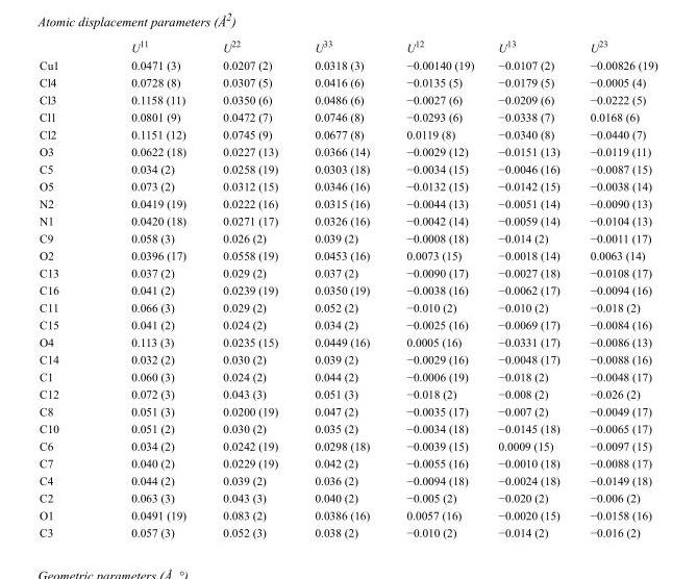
<table><thead><tr><td></td><td>U<sup>11</sup></td><td>U<sup>22</sup></td><td>U<sup>33</sup></td><td>U<sup>12</sup></td><td>U<sup>13</sup></td><td>U<sup>23</sup></td></tr></thead><tbody><tr><td>Cu1</td><td>0.0471 (3)</td><td>0.0207 (2)</td><td>0.0318 (3)</td><td>−0.00140 (19)</td><td>−0.0107 (2)</td><td>−0.00826 (19)</td></tr><tr><td>Cl4</td><td>0.0728 (8)</td><td>0.0307 (5)</td><td>0.0416 (6)</td><td>−0.0135 (5)</td><td>−0.0179 (5)</td><td>−0.0005 (4)</td></tr><tr><td>Cl3</td><td>0.1158 (11)</td><td>0.0350 (6)</td><td>0.0486 (6)</td><td>−0.0027 (6)</td><td>−0.0209 (6)</td><td>−0.0222 (5)</td></tr><tr><td>Cl1</td><td>0.0801 (9)</td><td>0.0472 (7)</td><td>0.0746 (8)</td><td>−0.0293 (6)</td><td>−0.0338 (7)</td><td>0.0168 (6)</td></tr><tr><td>Cl2</td><td>0.1151 (12)</td><td>0.0745 (9)</td><td>0.0677 (8)</td><td>0.0119 (8)</td><td>−0.0340 (8)</td><td>−0.0440 (7)</td></tr><tr><td>O3</td><td>0.0622 (18)</td><td>0.0227 (13)</td><td>0.0366 (14)</td><td>−0.0029 (12)</td><td>−0.0151 (13)</td><td>−0.0119 (11)</td></tr><tr><td>C5</td><td>0.034 (2)</td><td>0.0258 (19)</td><td>0.0303 (18)</td><td>−0.0034 (15)</td><td>−0.0046 (16)</td><td>−0.0087 (15)</td></tr><tr><td>O5</td><td>0.073 (2)</td><td>0.0312 (15)</td><td>0.0346 (16)</td><td>−0.0132 (15)</td><td>−0.0142 (15)</td><td>−0.0038 (14)</td></tr><tr><td>N2</td><td>0.0419 (19)</td><td>0.0222 (16)</td><td>0.0315 (16)</td><td>−0.0044 (13)</td><td>−0.0051 (14)</td><td>−0.0090 (13)</td></tr><tr><td>N1</td><td>0.0420 (18)</td><td>0.0271 (17)</td><td>0.0326 (16)</td><td>−0.0042 (14)</td><td>−0.0059 (14)</td><td>−0.0104 (13)</td></tr><tr><td>C9</td><td>0.058 (3)</td><td>0.026 (2)</td><td>0.039 (2)</td><td>−0.0008 (18)</td><td>−0.014 (2)</td><td>−0.0011 (17)</td></tr><tr><td>O2</td><td>0.0396 (17)</td><td>0.0558 (19)</td><td>0.0453 (16)</td><td>0.0073 (15)</td><td>−0.0018 (14)</td><td>0.0063 (14)</td></tr><tr><td>C13</td><td>0.037 (2)</td><td>0.029 (2)</td><td>0.037 (2)</td><td>−0.0090 (17)</td><td>−0.0027 (18)</td><td>−0.0108 (17)</td></tr><tr><td>C16</td><td>0.041 (2)</td><td>0.0239 (19)</td><td>0.0350 (19)</td><td>−0.0038 (16)</td><td>−0.0062 (17)</td><td>−0.0094 (16)</td></tr><tr><td>C11</td><td>0.066 (3)</td><td>0.029 (2)</td><td>0.052 (2)</td><td>−0.010 (2)</td><td>−0.010 (2)</td><td>−0.018 (2)</td></tr><tr><td>C15</td><td>0.041 (2)</td><td>0.024 (2)</td><td>0.034 (2)</td><td>−0.0025 (16)</td><td>−0.0069 (17)</td><td>−0.0084 (16)</td></tr><tr><td>O4</td><td>0.113 (3)</td><td>0.0235 (15)</td><td>0.0449 (16)</td><td>0.0005 (16)</td><td>−0.0331 (17)</td><td>−0.0086 (13)</td></tr><tr><td>C14</td><td>0.032 (2)</td><td>0.030 (2)</td><td>0.039 (2)</td><td>−0.0029 (16)</td><td>−0.0048 (17)</td><td>−0.0088 (16)</td></tr><tr><td>C1</td><td>0.060 (3)</td><td>0.024 (2)</td><td>0.044 (2)</td><td>−0.0006 (19)</td><td>−0.018 (2)</td><td>−0.0048 (17)</td></tr><tr><td>C12</td><td>0.072 (3)</td><td>0.043 (3)</td><td>0.051 (3)</td><td>−0.018 (2)</td><td>−0.008 (2)</td><td>−0.026 (2)</td></tr><tr><td>C8</td><td>0.051 (3)</td><td>0.0200 (19)</td><td>0.047 (2)</td><td>−0.0035 (17)</td><td>−0.007 (2)</td><td>−0.0049 (17)</td></tr><tr><td>C10</td><td>0.051 (2)</td><td>0.030 (2)</td><td>0.035 (2)</td><td>−0.0034 (18)</td><td>−0.0145 (18)</td><td>−0.0065 (17)</td></tr><tr><td>C6</td><td>0.034 (2)</td><td>0.0242 (19)</td><td>0.0298 (18)</td><td>−0.0039 (15)</td><td>0.0009 (15)</td><td>−0.0097 (15)</td></tr><tr><td>C7</td><td>0.040 (2)</td><td>0.0229 (19)</td><td>0.042 (2)</td><td>−0.0055 (16)</td><td>−0.0010 (18)</td><td>−0.0088 (17)</td></tr><tr><td>C4</td><td>0.044 (2)</td><td>0.039 (2)</td><td>0.036 (2)</td><td>−0.0094 (18)</td><td>−0.0024 (18)</td><td>−0.0149 (18)</td></tr><tr><td>C2</td><td>0.063 (3)</td><td>0.043 (3)</td><td>0.040 (2)</td><td>−0.005 (2)</td><td>−0.020 (2)</td><td>−0.006 (2)</td></tr><tr><td>O1</td><td>0.0491 (19)</td><td>0.083 (2)</td><td>0.0386 (16)</td><td>0.0057 (16)</td><td>−0.0020 (15)</td><td>−0.0158 (16)</td></tr><tr><td>C3</td><td>0.057 (3)</td><td>0.052 (3)</td><td>0.038 (2)</td><td>−0.010 (2)</td><td>−0.014 (2)</td><td>−0.016 (2)</td></tr></tbody></table>